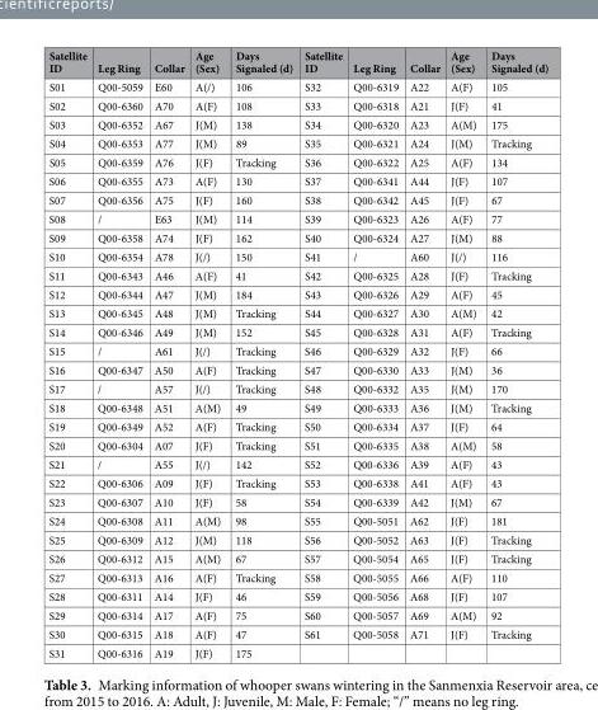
<table><thead><tr><td>Satellite ID</td><td>Leg Ring</td><td>Collar</td><td>Age (Sex)</td><td>Days Signaled (d)</td><td>Satellite ID</td><td>Leg Ring</td><td>Collar</td><td>Age (Sex)</td><td>Days Signaled (d)</td></tr></thead><tbody><tr><td>S01</td><td>Q00-5059</td><td>E60</td><td>A(/)</td><td>106</td><td>S32</td><td>Q00-6319</td><td>A22</td><td>A(F)</td><td>105</td></tr><tr><td>S02</td><td>Q00-6360</td><td>A70</td><td>A(F)</td><td>108</td><td>S33</td><td>Q00-6318</td><td>A21</td><td>J(F)</td><td>41</td></tr><tr><td>S03</td><td>Q00-6352</td><td>A67</td><td>J(M)</td><td>138</td><td>S34</td><td>Q00-6320</td><td>A23</td><td>A(M)</td><td>175</td></tr><tr><td>S04</td><td>Q00-6353</td><td>A77</td><td>J(M)</td><td>89</td><td>S35</td><td>Q00-6321</td><td>A24</td><td>J(M)</td><td>Tracking</td></tr><tr><td>S05</td><td>Q00-6359</td><td>A76</td><td>J(F)</td><td>Tracking</td><td>S36</td><td>Q00-6322</td><td>A25</td><td>A(F)</td><td>134</td></tr><tr><td>S06</td><td>Q00-6355</td><td>A73</td><td>A(F)</td><td>130</td><td>S37</td><td>Q00-6341</td><td>A44</td><td>J(F)</td><td>107</td></tr><tr><td>S07</td><td>Q00-6356</td><td>A75</td><td>J(F)</td><td>160</td><td>S38</td><td>Q00-6342</td><td>A45</td><td>J(F)</td><td>67</td></tr><tr><td>S08</td><td>/</td><td>E63</td><td>J(M)</td><td>114</td><td>S39</td><td>Q00-6323</td><td>A26</td><td>A(F)</td><td>77</td></tr><tr><td>S09</td><td>Q00-6358</td><td>A74</td><td>J(F)</td><td>162</td><td>S40</td><td>Q00-6324</td><td>A27</td><td>J(M)</td><td>88</td></tr><tr><td>S10</td><td>Q00-6354</td><td>A78</td><td>J(/)</td><td>150</td><td>S41</td><td>/</td><td>A60</td><td>J(/)</td><td>116</td></tr><tr><td>S11</td><td>Q00-6343</td><td>A46</td><td>A(F)</td><td>41</td><td>S42</td><td>Q00-6325</td><td>A28</td><td>J(F)</td><td>Tracking</td></tr><tr><td>S12</td><td>Q00-6344</td><td>A47</td><td>J(M)</td><td>184</td><td>S43</td><td>Q00-6326</td><td>A29</td><td>A(F)</td><td>45</td></tr><tr><td>S13</td><td>Q00-6345</td><td>A48</td><td>J(M)</td><td>Tracking</td><td>S44</td><td>Q00-6327</td><td>A30</td><td>A(M)</td><td>42</td></tr><tr><td>S14</td><td>Q00-6346</td><td>A49</td><td>J(M)</td><td>152</td><td>S45</td><td>Q00-6328</td><td>A31</td><td>A(F)</td><td>Tracking</td></tr><tr><td>S15</td><td>/</td><td>A61</td><td>J(/)</td><td>Tracking</td><td>S46</td><td>Q00-6329</td><td>A32</td><td>J(F)</td><td>66</td></tr><tr><td>S16</td><td>Q00-6347</td><td>A50</td><td>A(F)</td><td>Tracking</td><td>S47</td><td>Q00-6330</td><td>A33</td><td>J(M)</td><td>36</td></tr><tr><td>S17</td><td>/</td><td>A57</td><td>J(/)</td><td>Tracking</td><td>S48</td><td>Q00-6332</td><td>A35</td><td>J(M)</td><td>170</td></tr><tr><td>S18</td><td>Q00-6348</td><td>A51</td><td>A(M)</td><td>49</td><td>S49</td><td>Q00-6333</td><td>A36</td><td>J(M)</td><td>Tracking</td></tr><tr><td>S19</td><td>Q00-6349</td><td>A52</td><td>A(F)</td><td>Tracking</td><td>S50</td><td>Q00-6334</td><td>A37</td><td>J(F)</td><td>64</td></tr><tr><td>S20</td><td>Q00-6304</td><td>A07</td><td>J(F)</td><td>Tracking</td><td>S51</td><td>Q00-6335</td><td>A38</td><td>A(M)</td><td>58</td></tr><tr><td>S21</td><td>/</td><td>A55</td><td>J(/)</td><td>142</td><td>S52</td><td>Q00-6336</td><td>A39</td><td>A(F)</td><td>43</td></tr><tr><td>S22</td><td>Q00-6306</td><td>A09</td><td>J(F)</td><td>Tracking</td><td>S53</td><td>Q00-6338</td><td>A41</td><td>A(F)</td><td>43</td></tr><tr><td>S23</td><td>Q00-6307</td><td>A10</td><td>J(F)</td><td>58</td><td>S54</td><td>Q00-6339</td><td>A42</td><td>J(M)</td><td>67</td></tr><tr><td>S24</td><td>Q00-6308</td><td>A11</td><td>A(M)</td><td>98</td><td>S55</td><td>Q00-5051</td><td>A62</td><td>J(F)</td><td>181</td></tr><tr><td>S25</td><td>Q00-6309</td><td>A12</td><td>J(M)</td><td>118</td><td>S56</td><td>Q00-5052</td><td>A63</td><td>J(F)</td><td>Tracking</td></tr><tr><td>S26</td><td>Q00-6312</td><td>A15</td><td>A(M)</td><td>67</td><td>S57</td><td>Q00-5054</td><td>A65</td><td>J(F)</td><td>Tracking</td></tr><tr><td>S27</td><td>Q00-6313</td><td>A16</td><td>A(F)</td><td>Tracking</td><td>S58</td><td>Q00-5055</td><td>A66</td><td>A(F)</td><td>110</td></tr><tr><td>S28</td><td>Q00-6311</td><td>A14</td><td>J(F)</td><td>46</td><td>S59</td><td>Q00-5056</td><td>A68</td><td>J(F)</td><td>107</td></tr><tr><td>S29</td><td>Q00-6314</td><td>A17</td><td>A(F)</td><td>75</td><td>S60</td><td>Q00-5057</td><td>A69</td><td>A(M)</td><td>92</td></tr><tr><td>S30</td><td>Q00-6315</td><td>A18</td><td>A(F)</td><td>47</td><td>S61</td><td>Q00-5058</td><td>A71</td><td>J(F)</td><td>Tracking</td></tr><tr><td>S31</td><td>Q00-6316</td><td>A19</td><td>J(F)</td><td>175</td><td></td><td></td><td></td><td></td><td></td></tr></tbody></table>